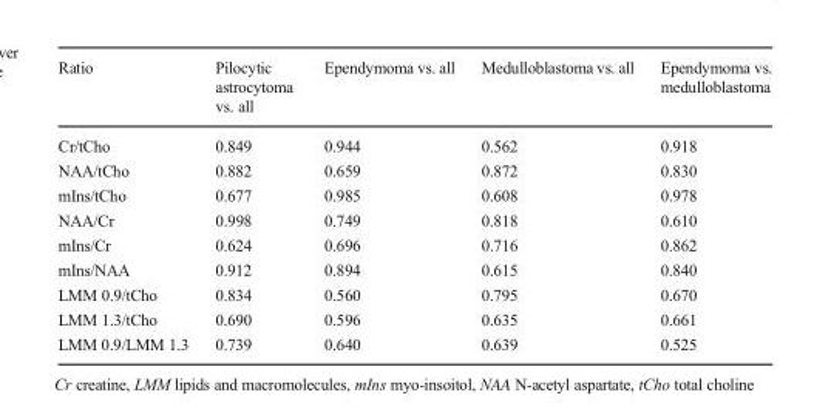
<table><thead><tr><td>Ratio</td><td>Pilocytic astrocytoma vs. all</td><td>Ependymoma vs. all</td><td>Medulloblastoma vs. all</td><td>Ependymoma vs. medulloblastoma</td></tr></thead><tbody><tr><td>Cr/tCho</td><td>0.849</td><td>0.944</td><td>0.562</td><td>0.918</td></tr><tr><td>NAA/tCho</td><td>0.882</td><td>0.659</td><td>0.872</td><td>0.830</td></tr><tr><td>mIns/tCho</td><td>0.677</td><td>0.985</td><td>0.608</td><td>0.978</td></tr><tr><td>NAA/Cr</td><td>0.998</td><td>0.749</td><td>0.818</td><td>0.610</td></tr><tr><td>mIns/Cr</td><td>0.624</td><td>0.696</td><td>0.716</td><td>0.862</td></tr><tr><td>mIns/NAA</td><td>0.912</td><td>0.894</td><td>0.615</td><td>0.840</td></tr><tr><td>LMM 0.9/tCho</td><td>0.834</td><td>0.560</td><td>0.795</td><td>0.670</td></tr><tr><td>LMM 1.3/tCho</td><td>0.690</td><td>0.596</td><td>0.635</td><td>0.661</td></tr><tr><td>LMM 0.9/LMM 1.3</td><td>0.739</td><td>0.640</td><td>0.639</td><td>0.525</td></tr></tbody></table>